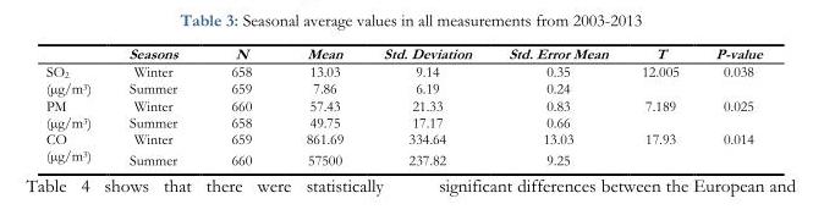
<table><thead><tr><td></td><td>Seasons</td><td>N</td><td>Mean</td><td>Std. Deviation</td><td>Std. Error Mean</td><td>T</td><td>P-value</td></tr></thead><tbody><tr><td rowspan="2">SO<sub>2</sub> (µg/m<sup>3</sup>)</td><td>Winter</td><td>658</td><td>13.03</td><td>9.14</td><td>0.35</td><td>12.005</td><td>0.038</td></tr><tr><td>Summer</td><td>659</td><td>7.86</td><td>6.19</td><td>0.24</td><td></td><td></td></tr><tr><td rowspan="2">PM (µg/m<sup>3</sup>)</td><td>Winter</td><td>660</td><td>57.43</td><td>21.33</td><td>0.83</td><td>7.189</td><td>0.025</td></tr><tr><td>Summer</td><td>658</td><td>49.75</td><td>17.17</td><td>0.66</td><td></td><td></td></tr><tr><td rowspan="2">CO (µg/m<sup>3</sup>)</td><td>Winter</td><td>659</td><td>861.69</td><td>334.64</td><td>13.03</td><td>17.93</td><td>0.014</td></tr><tr><td>Summer</td><td>660</td><td>57500</td><td>237.82</td><td>9.25</td><td></td><td></td></tr></tbody></table>